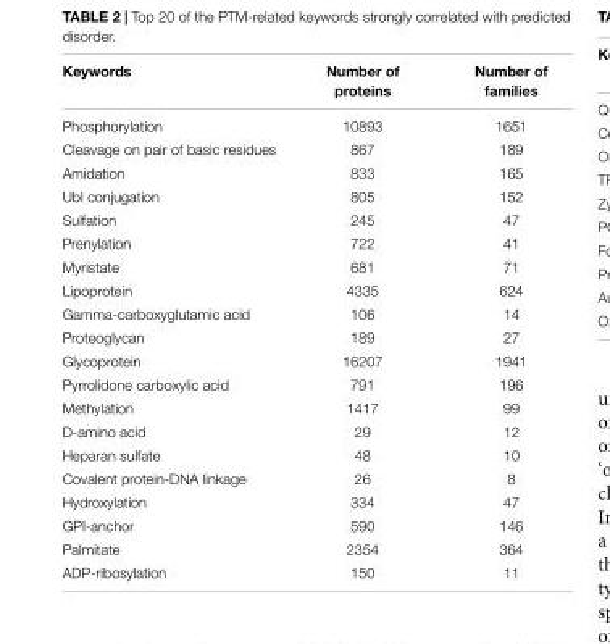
<table><thead><tr><td>Keywords</td><td>Number of proteins</td><td>Number of families</td></tr></thead><tbody><tr><td>Phosphorylation</td><td>10893</td><td>1651</td></tr><tr><td>Cleavage on pair of basic residues</td><td>867</td><td>189</td></tr><tr><td>Amidation</td><td>833</td><td>165</td></tr><tr><td>Ubl conjugation</td><td>805</td><td>152</td></tr><tr><td>Sulfation</td><td>245</td><td>47</td></tr><tr><td>Prenylation</td><td>722</td><td>41</td></tr><tr><td>Myristate</td><td>681</td><td>71</td></tr><tr><td>Lipoprotein</td><td>4335</td><td>624</td></tr><tr><td>Gamma-carboxyglutamic acid</td><td>106</td><td>14</td></tr><tr><td>Proteoglycan</td><td>189</td><td>27</td></tr><tr><td>Glycoprotein</td><td>16207</td><td>1941</td></tr><tr><td>Pyrrolidone carboxylic acid</td><td>791</td><td>196</td></tr><tr><td>Methylation</td><td>1417</td><td>99</td></tr><tr><td>D-amino acid</td><td>29</td><td>12</td></tr><tr><td>Heparan sulfate</td><td>48</td><td>10</td></tr><tr><td>Covalent protein-DNA linkage</td><td>26</td><td>8</td></tr><tr><td>Hydroxylation</td><td>334</td><td>47</td></tr><tr><td>GPI-anchor</td><td>590</td><td>146</td></tr><tr><td>Palmitate</td><td>2354</td><td>364</td></tr><tr><td>ADP-ribosylation</td><td>150</td><td>11</td></tr></tbody></table>